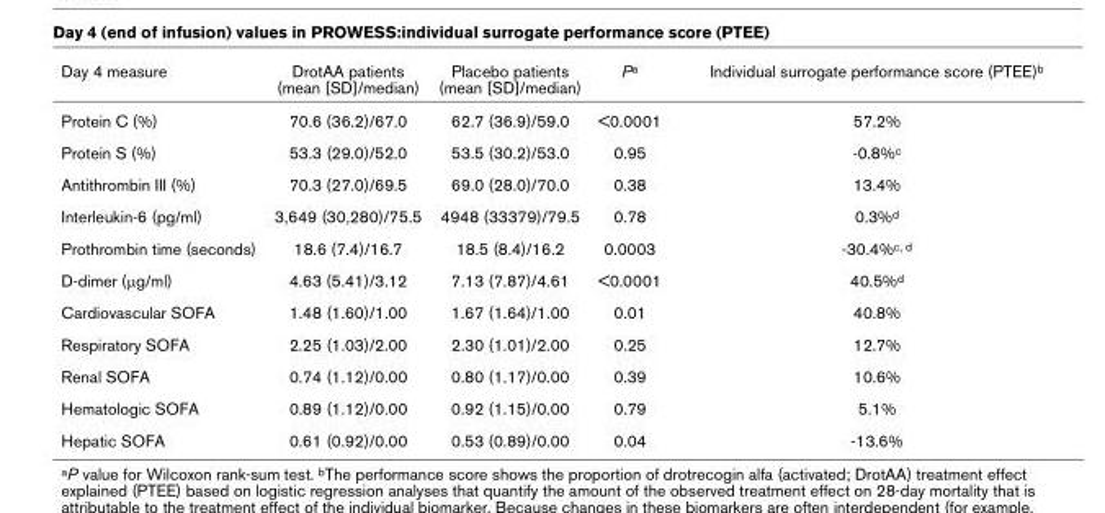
<table><thead><tr><td>Day 4 measure</td><td>DrotAA patients (mean [SD]/median)</td><td>Placebo patients (mean [SD]/median)</td><td>P<sup>a</sup></td><td>Individual surrogate performance score (PTEE)<sup>b</sup></td></tr></thead><tbody><tr><td>Protein C (%)</td><td>70.6 (36.2)/67.0</td><td>62.7 (36.9)/59.0</td><td>&lt;0.0001</td><td>57.2%</td></tr><tr><td>Protein S (%)</td><td>53.3 (29.0)/52.0</td><td>53.5 (30.2)/53.0</td><td>0.95</td><td>-0.8%<sup>c</sup></td></tr><tr><td>Antithrombin III (%)</td><td>70.3 (27.0)/69.5</td><td>69.0 (28.0)/70.0</td><td>0.38</td><td>13.4%</td></tr><tr><td>Interleukin-6 (pg/ml)</td><td>3,649 (30,280)/75.5</td><td>4948 (33379)/79.5</td><td>0.78</td><td>0.3%<sup>d</sup></td></tr><tr><td>Prothrombin time (seconds)</td><td>18.6 (7.4)/16.7</td><td>18.5 (8.4)/16.2</td><td>0.0003</td><td>-30.4%<sup>c, d</sup></td></tr><tr><td>D-dimer (μg/ml)</td><td>4.63 (5.41)/3.12</td><td>7.13 (7.87)/4.61</td><td>&lt;0.0001</td><td>40.5%<sup>d</sup></td></tr><tr><td>Cardiovascular SOFA</td><td>1.48 (1.60)/1.00</td><td>1.67 (1.64)/1.00</td><td>0.01</td><td>40.8%</td></tr><tr><td>Respiratory SOFA</td><td>2.25 (1.03)/2.00</td><td>2.30 (1.01)/2.00</td><td>0.25</td><td>12.7%</td></tr><tr><td>Renal SOFA</td><td>0.74 (1.12)/0.00</td><td>0.80 (1.17)/0.00</td><td>0.39</td><td>10.6%</td></tr><tr><td>Hematologic SOFA</td><td>0.89 (1.12)/0.00</td><td>0.92 (1.15)/0.00</td><td>0.79</td><td>5.1%</td></tr><tr><td>Hepatic SOFA</td><td>0.61 (0.92)/0.00</td><td>0.53 (0.89)/0.00</td><td>0.04</td><td>-13.6%</td></tr></tbody></table>